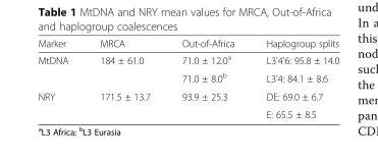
<table><thead><tr><td>Marker</td><td>MRCA</td><td>Out-of-Africa</td><td>Haplogroup splits</td></tr></thead><tbody><tr><td rowspan="2">MtDNA</td><td rowspan="2">184 ± 61.0</td><td>71.0 ± 12.0<sup>a</sup></td><td>L3&#x27;4&#x27;6: 95.8 ± 14.0</td></tr><tr><td>71.0 ± 8.0<sup>b</sup></td><td>L3&#x27;4: 84.1 ± 8.6</td></tr><tr><td rowspan="2">NRY</td><td rowspan="2">171.5 ± 13.7</td><td rowspan="2">93.9 ± 25.3</td><td>DE: 69.0 ± 6.7</td></tr><tr><td>E: 65.5 ± 8.5</td></tr></tbody></table>